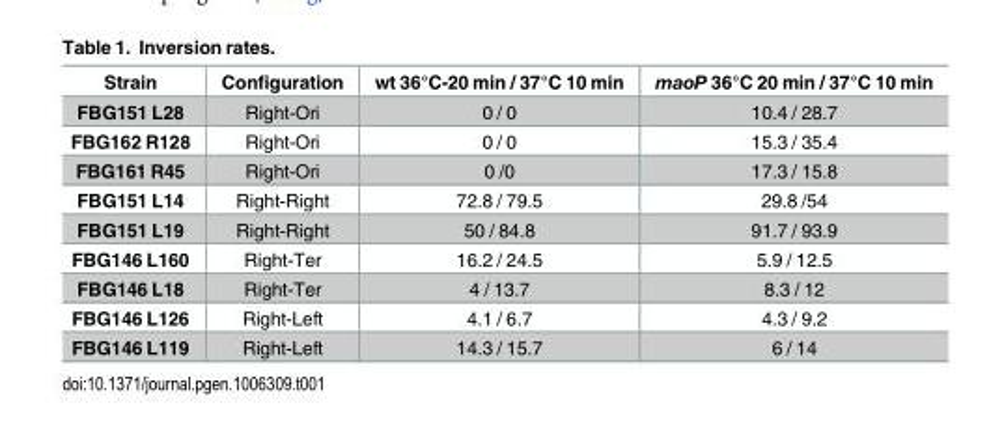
<table><thead><tr><td>Strain</td><td>Configuration</td><td>wt 36°C-20 min / 37°C 10 min</td><td>maoP 36°C 20 min / 37°C 10 min</td></tr></thead><tbody><tr><td>FBG151 L28</td><td>Right-Ori</td><td>0 / 0</td><td>10.4 / 28.7</td></tr><tr><td>FBG162 R128</td><td>Right-Ori</td><td>0 / 0</td><td>15.3 / 35.4</td></tr><tr><td>FBG161 R45</td><td>Right-Ori</td><td>0 /0</td><td>17.3 / 15.8</td></tr><tr><td>FBG151 L14</td><td>Right-Right</td><td>72.8 / 79.5</td><td>29.8 /54</td></tr><tr><td>FBG151 L19</td><td>Right-Right</td><td>50 / 84.8</td><td>91.7 / 93.9</td></tr><tr><td>FBG146 L160</td><td>Right-Ter</td><td>16.2 / 24.5</td><td>5.9 / 12.5</td></tr><tr><td>FBG146 L18</td><td>Right-Ter</td><td>4 / 13.7</td><td>8.3 / 12</td></tr><tr><td>FBG146 L126</td><td>Right-Left</td><td>4.1 / 6.7</td><td>4.3 / 9.2</td></tr><tr><td>FBG146 L119</td><td>Right-Left</td><td>14.3 / 15.7</td><td>6 / 14</td></tr></tbody></table>